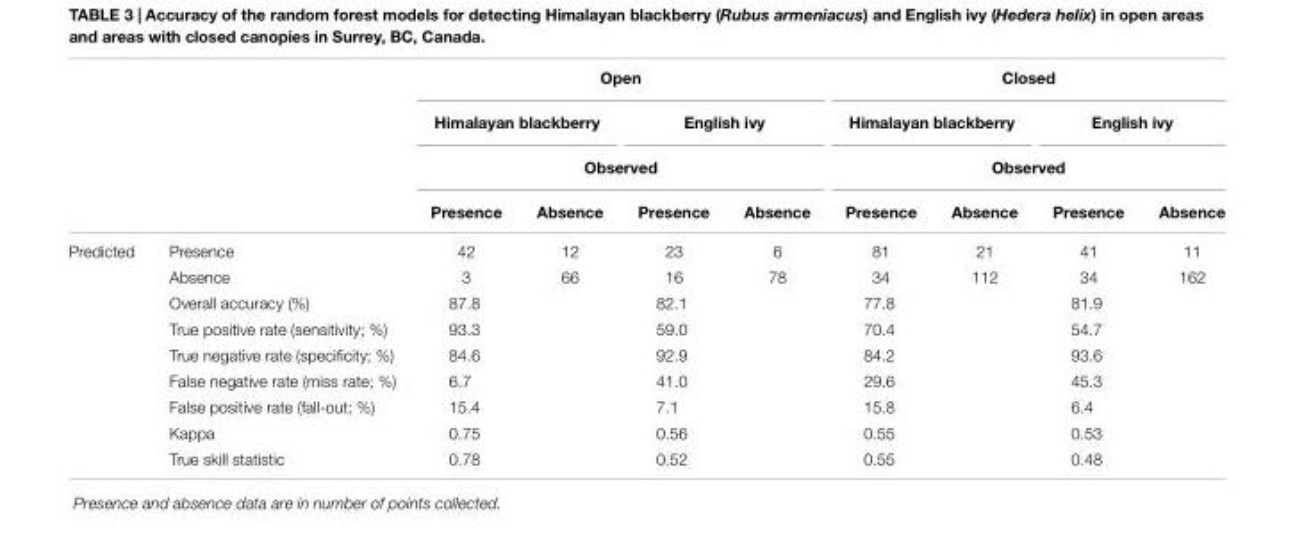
<table><thead><tr><td rowspan="4"></td><td rowspan="4"></td><td colspan="4">Open</td><td colspan="4">Closed</td></tr><tr><td colspan="2">Himalayan blackberry</td><td colspan="2">English ivy</td><td colspan="2">Himalayan blackberry</td><td colspan="2">English ivy</td></tr><tr><td colspan="4">Observed</td><td colspan="4">Observed</td></tr><tr><td>Presence</td><td>Absence</td><td>Presence</td><td>Absence</td><td>Presence</td><td>Absence</td><td>Presence</td><td>Absence</td></tr></thead><tbody><tr><td rowspan="9">Predicted</td><td>Presence</td><td>42</td><td>12</td><td>23</td><td>6</td><td>81</td><td>21</td><td>41</td><td>11</td></tr><tr><td>Absence</td><td>3</td><td>66</td><td>16</td><td>78</td><td>34</td><td>112</td><td>34</td><td>162</td></tr><tr><td>Overall accuracy (%)</td><td colspan="2">87.8</td><td colspan="2">82.1</td><td colspan="2">77.8</td><td colspan="2">81.9</td></tr><tr><td>True positive rate (sensitivity; %)</td><td colspan="2">93.3</td><td colspan="2">59.0</td><td colspan="2">70.4</td><td colspan="2">54.7</td></tr><tr><td>True negative rate (specificity; %)</td><td colspan="2">84.6</td><td colspan="2">92.9</td><td colspan="2">84.2</td><td colspan="2">93.6</td></tr><tr><td>False negative rate (miss rate; %)</td><td colspan="2">6.7</td><td colspan="2">41.0</td><td colspan="2">29.6</td><td colspan="2">45.3</td></tr><tr><td>False positive rate (fall-out; %)</td><td colspan="2">15.4</td><td colspan="2">7.1</td><td colspan="2">15.8</td><td colspan="2">6.4</td></tr><tr><td>Kappa</td><td colspan="2">0.75</td><td colspan="2">0.56</td><td colspan="2">0.55</td><td colspan="2">0.53</td></tr><tr><td>True skill statistic</td><td colspan="2">0.78</td><td colspan="2">0.52</td><td colspan="2">0.55</td><td colspan="2">0.48</td></tr></tbody></table>